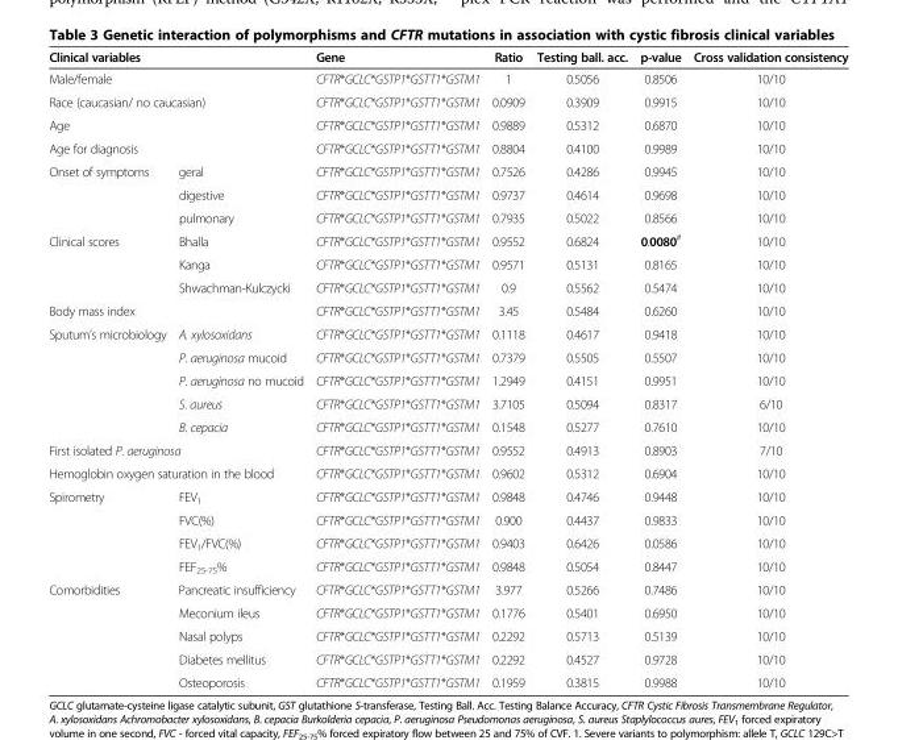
<table><thead><tr><td colspan="2">Clinical variables</td><td>Gene</td><td>Ratio</td><td>Testing ball. acc.</td><td>p-value</td><td>Cross validation consistency</td></tr></thead><tbody><tr><td colspan="2">Male/female</td><td>CFTR*GCLC*GSTP1*GSTT1*GSTM1</td><td>1</td><td>0.5056</td><td>0.8506</td><td>10/10</td></tr><tr><td colspan="2">Race (caucasian/ no caucasian)</td><td>CFTR*GCLC*GSTP1*GSTT1*GSTM1</td><td>0.0909</td><td>0.3909</td><td>0.9915</td><td>10/10</td></tr><tr><td colspan="2">Age</td><td>CFTR*GCLC*GSTP1*GSTT1*GSTM1</td><td>0.9889</td><td>0.5312</td><td>0.6870</td><td>10/10</td></tr><tr><td colspan="2">Age for diagnosis</td><td>CFTR*GCLC*GSTP1*GSTT1*GSTM1</td><td>0.8804</td><td>0.4100</td><td>0.9989</td><td>10/10</td></tr><tr><td rowspan="3">Onset of symptoms</td><td>geral</td><td>CFTR*GCLC*GSTP1*GSTT1*GSTM1</td><td>0.7526</td><td>0.4286</td><td>0.9945</td><td>10/10</td></tr><tr><td>digestive</td><td>CFTR*GCLC*GSTP1*GSTT1*GSTM1</td><td>0.9737</td><td>0.4614</td><td>0.9698</td><td>10/10</td></tr><tr><td>pulmonary</td><td>CFTR*GCLC*GSTP1*GSTT1*GSTM1</td><td>0.7935</td><td>0.5022</td><td>0.8566</td><td>10/10</td></tr><tr><td rowspan="3">Clinical scores</td><td>Bhalla</td><td>CFTR*GCLC*GSTP1*GSTT1*GSTM1</td><td>0.9552</td><td>0.6824</td><td>0.0080<sup>#</sup></td><td>10/10</td></tr><tr><td>Kanga</td><td>CFTR*GCLC*GSTP1*GSTT1*GSTM1</td><td>0.9571</td><td>0.5131</td><td>0.8165</td><td>10/10</td></tr><tr><td>Shwachman-Kulczycki</td><td>CFTR*GCLC*GSTP1*GSTT1*GSTM1</td><td>0.9</td><td>0.5562</td><td>0.5474</td><td>10/10</td></tr><tr><td colspan="2">Body mass index</td><td>CFTR*GCLC*GSTP1*GSTT1*GSTM1</td><td>3.45</td><td>0.5484</td><td>0.6260</td><td>10/10</td></tr><tr><td rowspan="5">Sputum’s microbiology</td><td>A. xylosoxidans</td><td>CFTR*GCLC*GSTP1*GSTT1*GSTM1</td><td>0.1118</td><td>0.4617</td><td>0.9418</td><td>10/10</td></tr><tr><td>P. aeruginosa mucoid</td><td>CFTR*GCLC*GSTP1*GSTT1*GSTM1</td><td>0.7379</td><td>0.5505</td><td>0.5507</td><td>10/10</td></tr><tr><td>P. aeruginosa no mucoid</td><td>CFTR*GCLC*GSTP1*GSTT1*GSTM1</td><td>1.2949</td><td>0.4151</td><td>0.9951</td><td>10/10</td></tr><tr><td>S. aureus</td><td>CFTR*GCLC*GSTP1*GSTT1*GSTM1</td><td>3.7105</td><td>0.5094</td><td>0.8317</td><td>6/10</td></tr><tr><td>B. cepacia</td><td>CFTR*GCLC*GSTP1*GSTT1*GSTM1</td><td>0.1548</td><td>0.5277</td><td>0.7610</td><td>10/10</td></tr><tr><td colspan="2">First isolated P. aeruginosa</td><td>CFTR*GCLC*GSTP1*GSTT1*GSTM1</td><td>0.9552</td><td>0.4913</td><td>0.8903</td><td>7/10</td></tr><tr><td colspan="2">Hemoglobin oxygen saturation in the blood</td><td>CFTR*GCLC*GSTP1*GSTT1*GSTM1</td><td>0.9602</td><td>0.5312</td><td>0.6904</td><td>10/10</td></tr><tr><td rowspan="4">Spirometry</td><td>FEV<sub>1</sub></td><td>CFTR*GCLC*GSTP1*GSTT1*GSTM1</td><td>0.9848</td><td>0.4746</td><td>0.9448</td><td>10/10</td></tr><tr><td>FVC(%)</td><td>CFTR*GCLC*GSTP1*GSTT1*GSTM1</td><td>0.900</td><td>0.4437</td><td>0.9833</td><td>10/10</td></tr><tr><td>FEV<sub>1</sub>/FVC(%)</td><td>CFTR*GCLC*GSTP1*GSTT1*GSTM1</td><td>0.9403</td><td>0.6426</td><td>0.0586</td><td>10/10</td></tr><tr><td>FEF<sub>25-75</sub>%</td><td>CFTR*GCLC*GSTP1*GSTT1*GSTM1</td><td>0.9848</td><td>0.5054</td><td>0.8447</td><td>10/10</td></tr><tr><td rowspan="5">Comorbidities</td><td>Pancreatic insufficiency</td><td>CFTR*GCLC*GSTP1*GSTT1*GSTM1</td><td>3.977</td><td>0.5266</td><td>0.7486</td><td>10/10</td></tr><tr><td>Meconium ileus</td><td>CFTR*GCLC*GSTP1*GSTT1*GSTM1</td><td>0.1776</td><td>0.5401</td><td>0.6950</td><td>10/10</td></tr><tr><td>Nasal polyps</td><td>CFTR*GCLC*GSTP1*GSTT1*GSTM1</td><td>0.2292</td><td>0.5713</td><td>0.5139</td><td>10/10</td></tr><tr><td>Diabetes mellitus</td><td>CFTR*GCLC*GSTP1*GSTT1*GSTM1</td><td>0.2292</td><td>0.4527</td><td>0.9728</td><td>10/10</td></tr><tr><td>Osteoporosis</td><td>CFTR*GCLC*GSTP1*GSTT1*GSTM1</td><td>0.1959</td><td>0.3815</td><td>0.9988</td><td>10/10</td></tr></tbody></table>